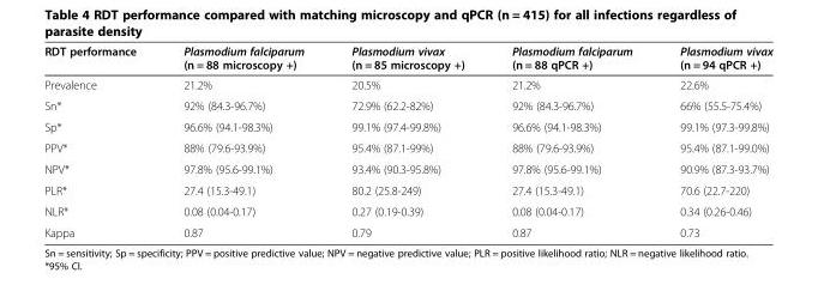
<table><thead><tr><td>RDT performance</td><td>Plasmodium falciparum (n = 88 microscopy +)</td><td>Plasmodium vivax (n = 85 microscopy +)</td><td>Plasmodium falciparum (n = 88 qPCR +)</td><td>Plasmodium vivax (n = 94 qPCR +)</td></tr></thead><tbody><tr><td>Prevalence</td><td>21.2%</td><td>20.5%</td><td>21.2%</td><td>22.6%</td></tr><tr><td>Sn*</td><td>92% (84.3-96.7%)</td><td>72.9% (62.2-82%)</td><td>92% (84.3-96.7%)</td><td>66% (55.5-75.4%)</td></tr><tr><td>Sp*</td><td>96.6% (94.1-98.3%)</td><td>99.1% (97.4-99.8%)</td><td>96.6% (94.1-98.3%)</td><td>99.1% (97.3-99.8%)</td></tr><tr><td>PPV*</td><td>88% (79.6-93.9%)</td><td>95.4% (87.1-99%)</td><td>88% (79.6-93.9%)</td><td>95.4% (87.1-99.0%)</td></tr><tr><td>NPV*</td><td>97.8% (95.6-99.1%)</td><td>93.4% (90.3-95.8%)</td><td>97.8% (95.6-99.1%)</td><td>90.9% (87.3-93.7%)</td></tr><tr><td>PLR*</td><td>27.4 (15.3-49.1)</td><td>80.2 (25.8-249)</td><td>27.4 (15.3-49.1)</td><td>70.6 (22.7-220)</td></tr><tr><td>NLR*</td><td>0.08 (0.04-0.17)</td><td>0.27 (0.19-0.39)</td><td>0.08 (0.04-0.17)</td><td>0.34 (0.26-0.46)</td></tr><tr><td>Kappa</td><td>0.87</td><td>0.79</td><td>0.87</td><td>0.73</td></tr></tbody></table>